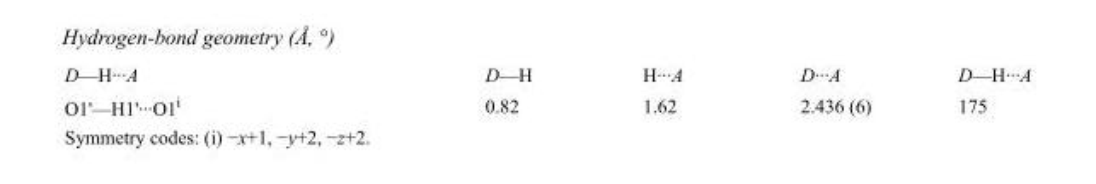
<table><tbody><tr><td>D—H···A</td><td>D—H</td><td>H···A</td><td>D···A</td><td>D—H···A</td></tr><tr><td>O1&#x27;—H1&#x27;···O1<sup>i</sup></td><td>0.82</td><td>1.62</td><td>2.436 (6)</td><td>175</td></tr></tbody></table>